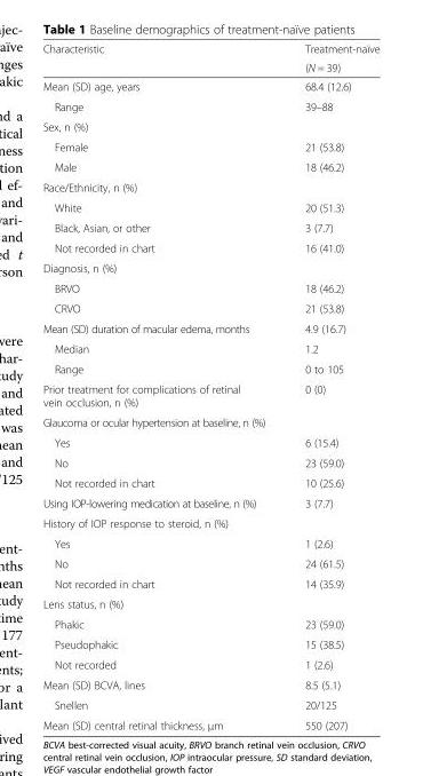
<table><thead><tr><td rowspan="2">Characteristic</td><td rowspan="2">Treatment-naïve (N = 39)</td></tr><tr></tr></thead><tbody><tr><td>Mean (SD) age, years</td><td>68.4 (12.6)</td></tr><tr><td>Range</td><td>39–88</td></tr><tr><td colspan="2">Sex, n (%)</td></tr><tr><td>Female</td><td>21 (53.8)</td></tr><tr><td>Male</td><td>18 (46.2)</td></tr><tr><td colspan="2">Race/Ethnicity, n (%)</td></tr><tr><td>White</td><td>20 (51.3)</td></tr><tr><td>Black, Asian, or other</td><td>3 (7.7)</td></tr><tr><td>Not recorded in chart</td><td>16 (41.0)</td></tr><tr><td colspan="2">Diagnosis, n (%)</td></tr><tr><td>BRVO</td><td>18 (46.2)</td></tr><tr><td>CRVO</td><td>21 (53.8)</td></tr><tr><td>Mean (SD) duration of macular edema, months</td><td>4.9 (16.7)</td></tr><tr><td>Median</td><td>1.2</td></tr><tr><td>Range</td><td>0 to 105</td></tr><tr><td>Prior treatment for complications of retinal vein occlusion, n (%)</td><td>0 (0)</td></tr><tr><td colspan="2">Glaucoma or ocular hypertension at baseline, n (%)</td></tr><tr><td>Yes</td><td>6 (15.4)</td></tr><tr><td>No</td><td>23 (59.0)</td></tr><tr><td>Not recorded in chart</td><td>10 (25.6)</td></tr><tr><td>Using IOP-lowering medication at baseline, n (%)</td><td>3 (7.7)</td></tr><tr><td colspan="2">History of IOP response to steroid, n (%)</td></tr><tr><td>Yes</td><td>1 (2.6)</td></tr><tr><td>No</td><td>24 (61.5)</td></tr><tr><td>Not recorded in chart</td><td>14 (35.9)</td></tr><tr><td colspan="2">Lens status, n (%)</td></tr><tr><td>Phakic</td><td>23 (59.0)</td></tr><tr><td>Pseudophakic</td><td>15 (38.5)</td></tr><tr><td>Not recorded</td><td>1 (2.6)</td></tr><tr><td>Mean (SD) BCVA, lines</td><td>8.5 (5.1)</td></tr><tr><td>Snellen</td><td>20/125</td></tr><tr><td>Mean (SD) central retinal thickness, μm</td><td>550 (207)</td></tr></tbody></table>